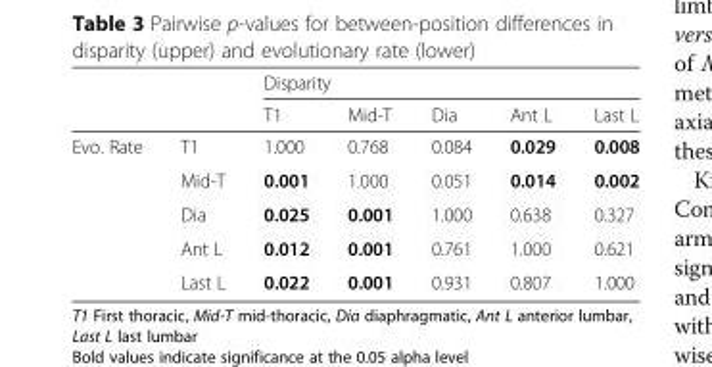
<table><thead><tr><td rowspan="2"></td><td rowspan="2"></td><td colspan="5">Disparity</td></tr><tr><td>T1</td><td>Mid-T</td><td>Dia</td><td>Ant L</td><td>Last L</td></tr></thead><tbody><tr><td rowspan="5">Evo. Rate</td><td>T1</td><td>1.000</td><td>0.768</td><td>0.084</td><td>0.029</td><td>0.008</td></tr><tr><td>Mid-T</td><td>0.001</td><td>1.000</td><td>0.051</td><td>0.014</td><td>0.002</td></tr><tr><td>Dia</td><td>0.025</td><td>0.001</td><td>1.000</td><td>0.638</td><td>0.327</td></tr><tr><td>Ant L</td><td>0.012</td><td>0.001</td><td>0.761</td><td>1.000</td><td>0.621</td></tr><tr><td>Last L</td><td>0.022</td><td>0.001</td><td>0.931</td><td>0.807</td><td>1.000</td></tr></tbody></table>